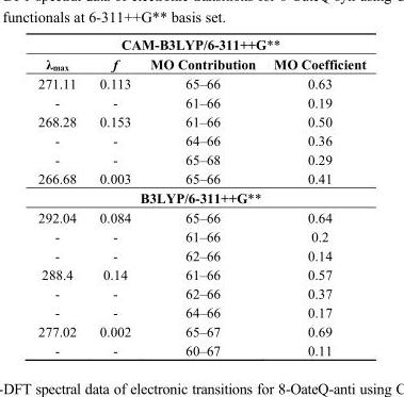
<table><thead><tr><td colspan="4">CAM-B3LYP/6-311++G**</td></tr><tr><td>λ<sub>max</sub></td><td>f</td><td>MO Contribution</td><td>MO Coefficient</td></tr></thead><tbody><tr><td>271.11</td><td>0.113</td><td>65–66</td><td>0.63</td></tr><tr><td>-</td><td>-</td><td>61–66</td><td>0.19</td></tr><tr><td>268.28</td><td>0.153</td><td>61–66</td><td>0.50</td></tr><tr><td>-</td><td>-</td><td>64–66</td><td>0.36</td></tr><tr><td>-</td><td>-</td><td>65–68</td><td>0.29</td></tr><tr><td>266.68</td><td>0.003</td><td>65–66</td><td>0.41</td></tr><tr><td colspan="4">B3LYP/6-311++G**</td></tr><tr><td>292.04</td><td>0.084</td><td>65–66</td><td>0.64</td></tr><tr><td>-</td><td>-</td><td>61–66</td><td>0.2</td></tr><tr><td>-</td><td>-</td><td>62–66</td><td>0.14</td></tr><tr><td>288.4</td><td>0.14</td><td>61–66</td><td>0.57</td></tr><tr><td>-</td><td>-</td><td>62–66</td><td>0.37</td></tr><tr><td>-</td><td>-</td><td>64–66</td><td>0.17</td></tr><tr><td>277.02</td><td>0.002</td><td>65–67</td><td>0.69</td></tr><tr><td>-</td><td>-</td><td>60–67</td><td>0.11</td></tr></tbody></table>